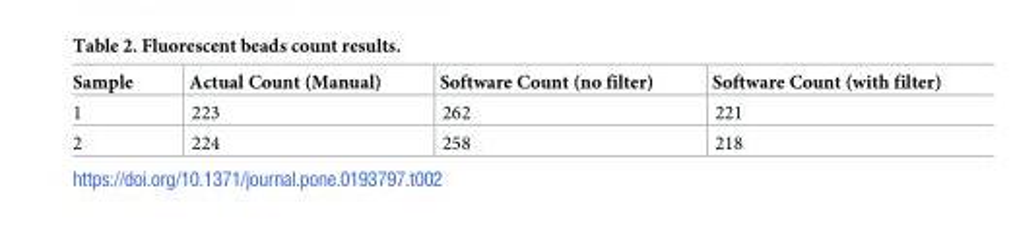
<table><thead><tr><td>Sample</td><td>Actual Count (Manual)</td><td>Software Count (no filter)</td><td>Software Count (with filter)</td></tr></thead><tbody><tr><td>1</td><td>223</td><td>262</td><td>221</td></tr><tr><td>2</td><td>224</td><td>258</td><td>218</td></tr></tbody></table>